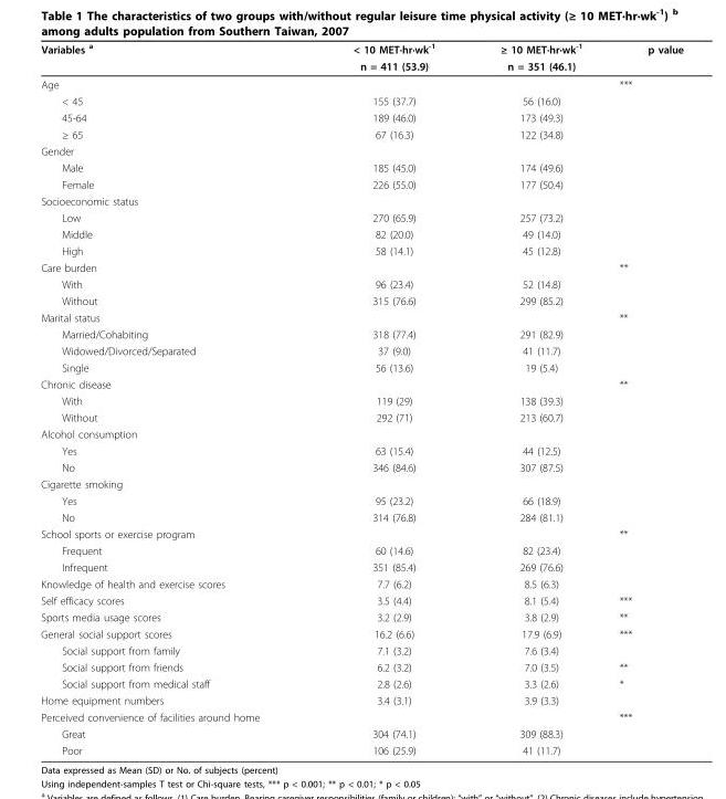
<table><thead><tr><td rowspan="2">Variables <sup>a</sup></td><td rowspan="2">&lt; 10 MET·hr·wk<sup>-1</sup> n = 411 (53.9)</td><td rowspan="2">≥ 10 MET·hr·wk<sup>-1</sup> n = 351 (46.1)</td><td rowspan="2">p value</td></tr><tr></tr></thead><tbody><tr><td>Age</td><td></td><td></td><td>***</td></tr><tr><td>&lt; 45</td><td>155 (37.7)</td><td>56 (16.0)</td><td></td></tr><tr><td>45-64</td><td>189 (46.0)</td><td>173 (49.3)</td><td></td></tr><tr><td>≥ 65</td><td>67 (16.3)</td><td>122 (34.8)</td><td></td></tr><tr><td colspan="4">Gender</td></tr><tr><td>Male</td><td>185 (45.0)</td><td>174 (49.6)</td><td></td></tr><tr><td>Female</td><td>226 (55.0)</td><td>177 (50.4)</td><td></td></tr><tr><td colspan="4">Socioeconomic status</td></tr><tr><td>Low</td><td>270 (65.9)</td><td>257 (73.2)</td><td></td></tr><tr><td>Middle</td><td>82 (20.0)</td><td>49 (14.0)</td><td></td></tr><tr><td>High</td><td>58 (14.1)</td><td>45 (12.8)</td><td></td></tr><tr><td>Care burden</td><td></td><td></td><td>**</td></tr><tr><td>With</td><td>96 (23.4)</td><td>52 (14.8)</td><td></td></tr><tr><td>Without</td><td>315 (76.6)</td><td>299 (85.2)</td><td></td></tr><tr><td>Marital status</td><td></td><td></td><td>**</td></tr><tr><td>Married/Cohabiting</td><td>318 (77.4)</td><td>291 (82.9)</td><td></td></tr><tr><td>Widowed/Divorced/Separated</td><td>37 (9.0)</td><td>41 (11.7)</td><td></td></tr><tr><td>Single</td><td>56 (13.6)</td><td>19 (5.4)</td><td></td></tr><tr><td>Chronic disease</td><td></td><td></td><td>**</td></tr><tr><td>With</td><td>119 (29)</td><td>138 (39.3)</td><td></td></tr><tr><td>Without</td><td>292 (71)</td><td>213 (60.7)</td><td></td></tr><tr><td colspan="4">Alcohol consumption</td></tr><tr><td>Yes</td><td>63 (15.4)</td><td>44 (12.5)</td><td></td></tr><tr><td>No</td><td>346 (84.6)</td><td>307 (87.5)</td><td></td></tr><tr><td colspan="4">Cigarette smoking</td></tr><tr><td>Yes</td><td>95 (23.2)</td><td>66 (18.9)</td><td></td></tr><tr><td>No</td><td>314 (76.8)</td><td>284 (81.1)</td><td></td></tr><tr><td>School sports or exercise program</td><td></td><td></td><td>**</td></tr><tr><td>Frequent</td><td>60 (14.6)</td><td>82 (23.4)</td><td></td></tr><tr><td>Infrequent</td><td>351 (85.4)</td><td>269 (76.6)</td><td></td></tr><tr><td>Knowledge of health and exercise scores</td><td>7.7 (6.2)</td><td>8.5 (6.3)</td><td></td></tr><tr><td>Self efficacy scores</td><td>3.5 (4.4)</td><td>8.1 (5.4)</td><td>***</td></tr><tr><td>Sports media usage scores</td><td>3.2 (2.9)</td><td>3.8 (2.9)</td><td>**</td></tr><tr><td>General social support scores</td><td>16.2 (6.6)</td><td>17.9 (6.9)</td><td>***</td></tr><tr><td>Social support from family</td><td>7.1 (3.2)</td><td>7.6 (3.4)</td><td></td></tr><tr><td>Social support from friends</td><td>6.2 (3.2)</td><td>7.0 (3.5)</td><td>**</td></tr><tr><td>Social support from medical staff</td><td>2.8 (2.6)</td><td>3.3 (2.6)</td><td>*</td></tr><tr><td>Home equipment numbers</td><td>3.4 (3.1)</td><td>3.9 (3.3)</td><td></td></tr><tr><td>Perceived convenience of facilities around home</td><td></td><td></td><td>***</td></tr><tr><td>Great</td><td>304 (74.1)</td><td>309 (88.3)</td><td></td></tr><tr><td>Poor</td><td>106 (25.9)</td><td>41 (11.7)</td><td></td></tr></tbody></table>